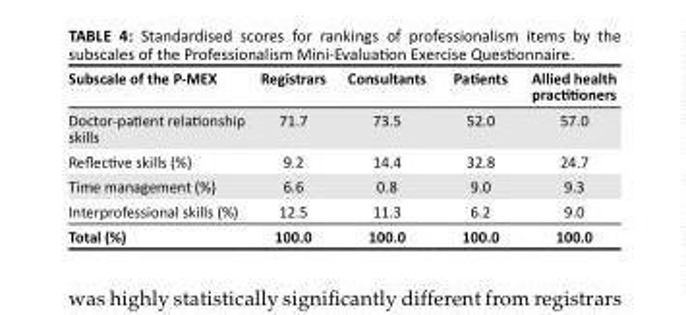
<table><thead><tr><td>Subscale of the P-MEX</td><td>Registrars</td><td>Consultants</td><td>Patients</td><td>Allied health practitioners</td></tr></thead><tbody><tr><td>Doctor-patient relationship skills</td><td>71.7</td><td>73.5</td><td>52.0</td><td>57.0</td></tr><tr><td>Reflective skills (%)</td><td>9.2</td><td>14.4</td><td>32.8</td><td>24.7</td></tr><tr><td>Time management (%)</td><td>6.6</td><td>0.8</td><td>9.0</td><td>9.3</td></tr><tr><td>Interprofessional skills (%)</td><td>12.5</td><td>11.3</td><td>6.2</td><td>9.0</td></tr><tr><td>Total (%)</td><td>100.0</td><td>100.0</td><td>100.0</td><td>100.0</td></tr></tbody></table>